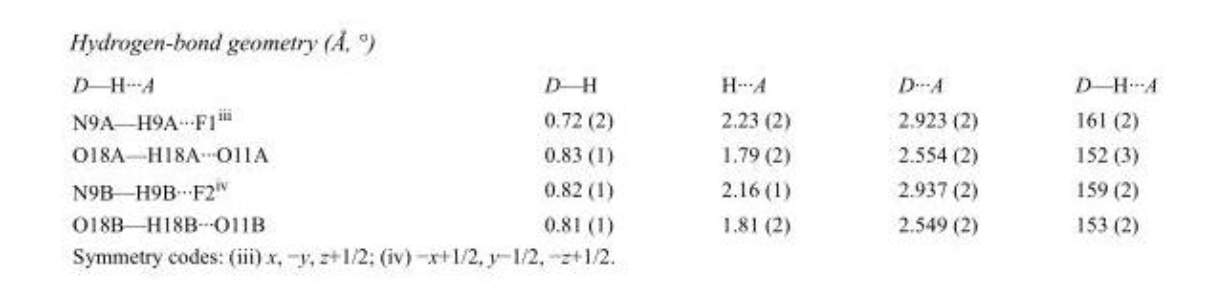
<table><tbody><tr><td>D—H···A</td><td>D—H</td><td>H···A</td><td>D···A</td><td>D—H···A</td></tr><tr><td>N9A—H9A···F1<sup>iii</sup></td><td>0.72 (2)</td><td>2.23 (2)</td><td>2.923 (2)</td><td>161 (2)</td></tr><tr><td>O18A—H18A···O11A</td><td>0.83 (1)</td><td>1.79 (2)</td><td>2.554 (2)</td><td>152 (3)</td></tr><tr><td>N9B—H9B···F2<sup>iv</sup></td><td>0.82 (1)</td><td>2.16 (1)</td><td>2.937 (2)</td><td>159 (2)</td></tr><tr><td>O18B—H18B···O11B</td><td>0.81 (1)</td><td>1.81 (2)</td><td>2.549 (2)</td><td>153 (2)</td></tr></tbody></table>